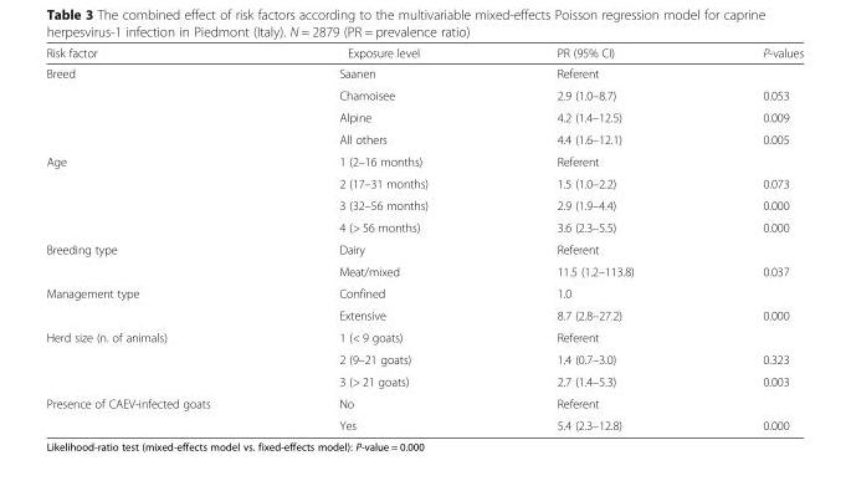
<table><thead><tr><td>Risk factor</td><td>Exposure level</td><td>PR (95% CI)</td><td>P-values</td></tr></thead><tbody><tr><td rowspan="4">Breed</td><td>Saanen</td><td>Referent</td><td></td></tr><tr><td>Chamoisee</td><td>2.9 (1.0–8.7)</td><td>0.053</td></tr><tr><td>Alpine</td><td>4.2 (1.4–12.5)</td><td>0.009</td></tr><tr><td>All others</td><td>4.4 (1.6–12.1)</td><td>0.005</td></tr><tr><td rowspan="4">Age</td><td>1 (2–16 months)</td><td>Referent</td><td></td></tr><tr><td>2 (17–31 months)</td><td>1.5 (1.0–2.2)</td><td>0.073</td></tr><tr><td>3 (32–56 months)</td><td>2.9 (1.9–4.4)</td><td>0.000</td></tr><tr><td>4 (&gt; 56 months)</td><td>3.6 (2.3–5.5)</td><td>0.000</td></tr><tr><td rowspan="2">Breeding type</td><td>Dairy</td><td>Referent</td><td></td></tr><tr><td>Meat/mixed</td><td>11.5 (1.2–113.8)</td><td>0.037</td></tr><tr><td rowspan="2">Management type</td><td>Confined</td><td>1.0</td><td></td></tr><tr><td>Extensive</td><td>8.7 (2.8–27.2)</td><td>0.000</td></tr><tr><td rowspan="3">Herd size (n. of animals)</td><td>1 (&lt; 9 goats)</td><td>Referent</td><td></td></tr><tr><td>2 (9–21 goats)</td><td>1.4 (0.7–3.0)</td><td>0.323</td></tr><tr><td>3 (&gt; 21 goats)</td><td>2.7 (1.4–5.3)</td><td>0.003</td></tr><tr><td rowspan="2">Presence of CAEV-infected goats</td><td>No</td><td>Referent</td><td></td></tr><tr><td>Yes</td><td>5.4 (2.3–12.8)</td><td>0.000</td></tr></tbody></table>